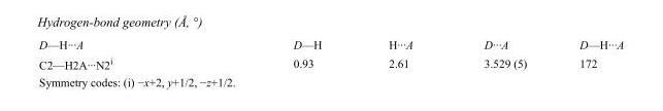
<table><tbody><tr><td>D—H···A</td><td>D—H</td><td>H···A</td><td>D···A</td><td>D—H···A</td></tr><tr><td>C2—H2A···N2<sup>i</sup></td><td>0.93</td><td>2.61</td><td>3.529 (5)</td><td>172</td></tr></tbody></table>